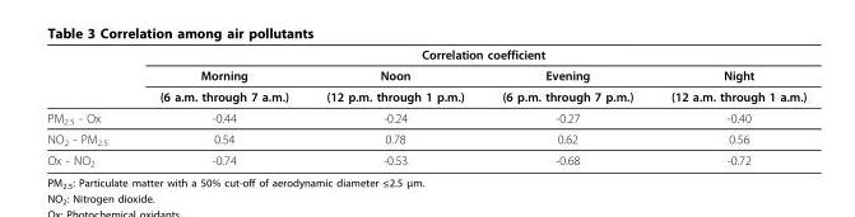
<table><thead><tr><td rowspan="3"></td><td colspan="4">Correlation coefficient</td></tr><tr><td rowspan="2">Morning (6 a.m. through 7 a.m.)</td><td rowspan="2">Noon (12 p.m. through 1 p.m.)</td><td rowspan="2">Evening (6 p.m. through 7 p.m.)</td><td rowspan="2">Night (12 a.m. through 1 a.m.)</td></tr><tr></tr></thead><tbody><tr><td>PM<sub>2.5</sub> - Ox</td><td>-0.44</td><td>-0.24</td><td>-0.27</td><td>-0.40</td></tr><tr><td>NO<sub>2</sub> - PM<sub>2.5</sub></td><td>0.54</td><td>0.78</td><td>0.62</td><td>0.56</td></tr><tr><td>Ox - NO<sub>2</sub></td><td>-0.74</td><td>-0.53</td><td>-0.68</td><td>-0.72</td></tr></tbody></table>